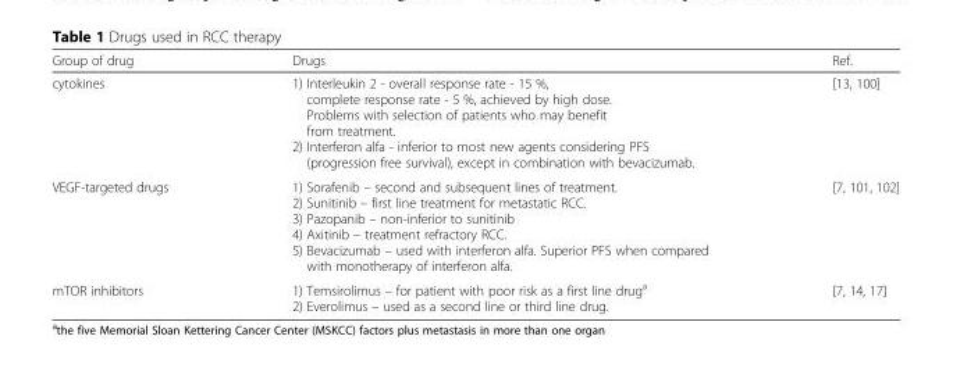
<table><thead><tr><td>Group of drug</td><td>Drugs</td><td>Ref.</td></tr></thead><tbody><tr><td>cytokines</td><td>1) Interleukin 2 - overall response rate - 15 %, complete response rate - 5 %, achieved by high dose. Problems with selection of patients who may benefit from treatment. 2) Interferon alfa - inferior to most new agents considering PFS (progression free survival), except in combination with bevacizumab.</td><td>[13, 100]</td></tr><tr><td>VEGF-targeted drugs</td><td>1) Sorafenib – second and subsequent lines of treatment. 2) Sunitinib – first line treatment for metastatic RCC. 3) Pazopanib – non-inferior to sunitinib 4) Axitinib – treatment refractory RCC. 5) Bevacizumab – used with interferon alfa. Superior PFS when compared with monotherapy of interferon alfa.</td><td>[7, 101, 102]</td></tr><tr><td>mTOR inhibitors</td><td>1) Temsirolimus – for patient with poor risk as a first line drug<sup>a</sup> 2) Everolimus – used as a second line or third line drug.</td><td>[7, 14, 17]</td></tr></tbody></table>